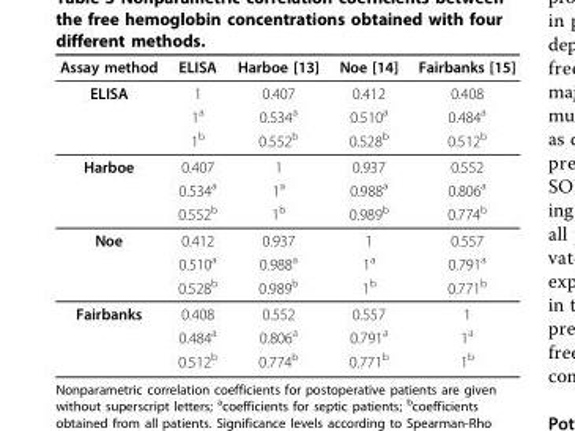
<table><thead><tr><td>Assay method</td><td>ELISA</td><td>Harboe [13]</td><td>Noe [14]</td><td>Fairbanks [15]</td></tr></thead><tbody><tr><td rowspan="3">ELISA</td><td>1</td><td>0.407</td><td>0.412</td><td>0.408</td></tr><tr><td>1<sup>a</sup></td><td>0.534<sup>a</sup></td><td>0.510<sup>a</sup></td><td>0.484<sup>a</sup></td></tr><tr><td>1<sup>b</sup></td><td>0.552<sup>b</sup></td><td>0.528<sup>b</sup></td><td>0.512<sup>b</sup></td></tr><tr><td rowspan="3">Harboe</td><td>0.407</td><td>1</td><td>0.937</td><td>0.552</td></tr><tr><td>0.534<sup>a</sup></td><td>1<sup>a</sup></td><td>0.988<sup>a</sup></td><td>0.806<sup>a</sup></td></tr><tr><td>0.552<sup>b</sup></td><td>1<sup>b</sup></td><td>0.989<sup>b</sup></td><td>0.774<sup>b</sup></td></tr><tr><td rowspan="3">Noe</td><td>0.412</td><td>0.937</td><td>1</td><td>0.557</td></tr><tr><td>0.510<sup>a</sup></td><td>0.988<sup>a</sup></td><td>1<sup>a</sup></td><td>0.791<sup>a</sup></td></tr><tr><td>0.528<sup>b</sup></td><td>0.989<sup>b</sup></td><td>1<sup>b</sup></td><td>0.771<sup>b</sup></td></tr><tr><td rowspan="3">Fairbanks</td><td>0.408</td><td>0.552</td><td>0.557</td><td>1</td></tr><tr><td>0.484<sup>a</sup></td><td>0.806<sup>a</sup></td><td>0.791<sup>a</sup></td><td>1<sup>a</sup></td></tr><tr><td>0.512<sup>b</sup></td><td>0.774<sup>b</sup></td><td>0.771<sup>b</sup></td><td>1<sup>b</sup></td></tr></tbody></table>